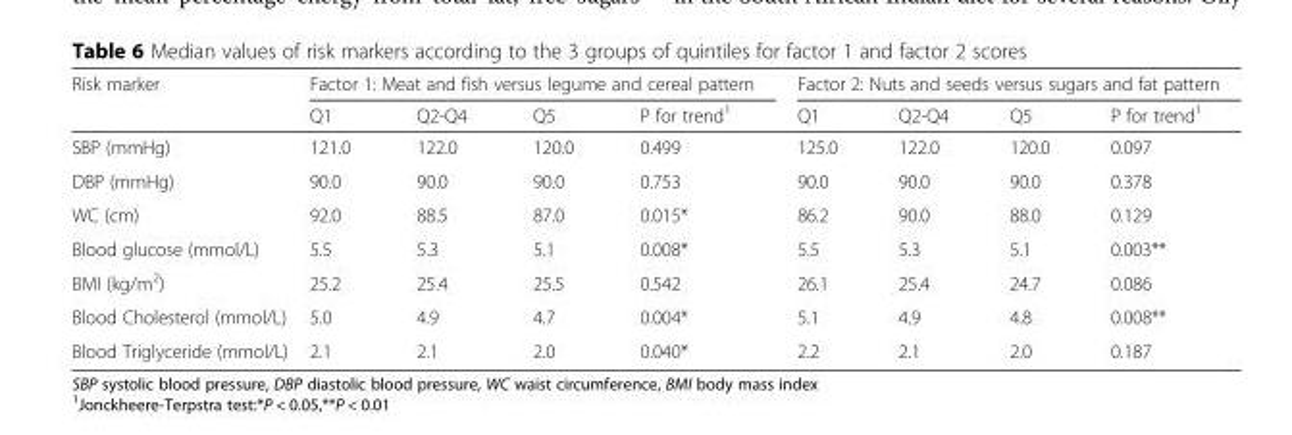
<table><thead><tr><td rowspan="2">Risk marker</td><td colspan="4">Factor 1: Meat and fish versus legume and cereal pattern</td><td colspan="4">Factor 2: Nuts and seeds versus sugars and fat pattern</td></tr><tr><td>Q1</td><td>Q2-Q4</td><td>Q5</td><td>P for trend<sup>1</sup></td><td>Q1</td><td>Q2-Q4</td><td>Q5</td><td>P for trend<sup>1</sup></td></tr></thead><tbody><tr><td>SBP (mmHg)</td><td>121.0</td><td>122.0</td><td>120.0</td><td>0.499</td><td>125.0</td><td>122.0</td><td>120.0</td><td>0.097</td></tr><tr><td>DBP (mmHg)</td><td>90.0</td><td>90.0</td><td>90.0</td><td>0.753</td><td>90.0</td><td>90.0</td><td>90.0</td><td>0.378</td></tr><tr><td>WC (cm)</td><td>92.0</td><td>88.5</td><td>87.0</td><td>0.015*</td><td>86.2</td><td>90.0</td><td>88.0</td><td>0.129</td></tr><tr><td>Blood glucose (mmol/L)</td><td>5.5</td><td>5.3</td><td>5.1</td><td>0.008*</td><td>5.5</td><td>5.3</td><td>5.1</td><td>0.003**</td></tr><tr><td>BMI (kg/m<sup>2</sup>)</td><td>25.2</td><td>25.4</td><td>25.5</td><td>0.542</td><td>26.1</td><td>25.4</td><td>24.7</td><td>0.086</td></tr><tr><td>Blood Cholesterol (mmol/L)</td><td>5.0</td><td>4.9</td><td>4.7</td><td>0.004*</td><td>5.1</td><td>4.9</td><td>4.8</td><td>0.008**</td></tr><tr><td>Blood Triglyceride (mmol/L)</td><td>2.1</td><td>2.1</td><td>2.0</td><td>0.040*</td><td>2.2</td><td>2.1</td><td>2.0</td><td>0.187</td></tr></tbody></table>